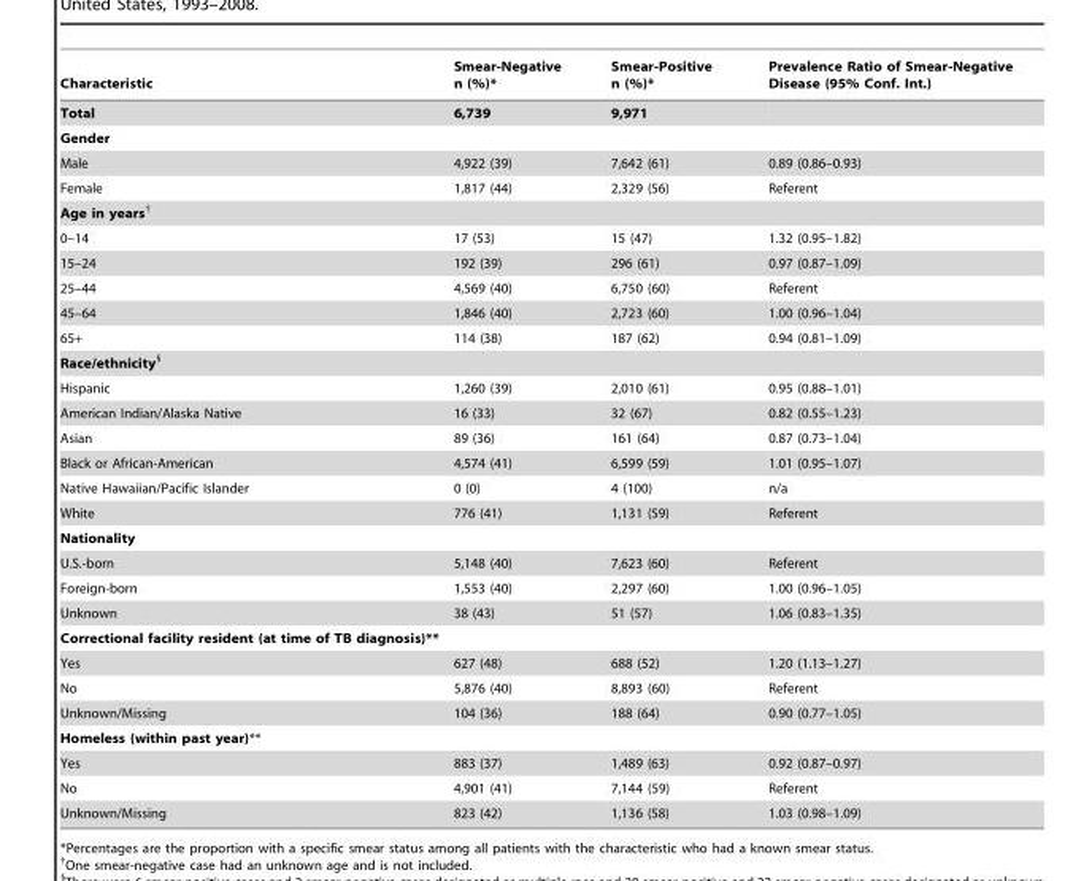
<table><thead><tr><td>Characteristic</td><td>Smear-Negative n (%)*</td><td>Smear-Positive n (%)*</td><td>Prevalence Ratio of Smear-Negative Disease (95% Conf. Int.)</td></tr></thead><tbody><tr><td>Total</td><td>6,739</td><td>9,971</td><td></td></tr><tr><td colspan="4">Gender</td></tr><tr><td>Male</td><td>4,922 (39)</td><td>7,642 (61)</td><td>0.89 (0.86–0.93)</td></tr><tr><td>Female</td><td>1,817 (44)</td><td>2,329 (56)</td><td>Referent</td></tr><tr><td colspan="4">Age in years†</td></tr><tr><td>0–14</td><td>17 (53)</td><td>15 (47)</td><td>1.32 (0.95–1.82)</td></tr><tr><td>15–24</td><td>192 (39)</td><td>296 (61)</td><td>0.97 (0.87–1.09)</td></tr><tr><td>25–44</td><td>4,569 (40)</td><td>6,750 (60)</td><td>Referent</td></tr><tr><td>45–64</td><td>1,846 (40)</td><td>2,723 (60)</td><td>1.00 (0.96–1.04)</td></tr><tr><td>65+</td><td>114 (38)</td><td>187 (62)</td><td>0.94 (0.81–1.09)</td></tr><tr><td colspan="4">Race/ethnicity§</td></tr><tr><td>Hispanic</td><td>1,260 (39)</td><td>2,010 (61)</td><td>0.95 (0.88–1.01)</td></tr><tr><td>American Indian/Alaska Native</td><td>16 (33)</td><td>32 (67)</td><td>0.82 (0.55–1.23)</td></tr><tr><td>Asian</td><td>89 (36)</td><td>161 (64)</td><td>0.87 (0.73–1.04)</td></tr><tr><td>Black or African-American</td><td>4,574 (41)</td><td>6,599 (59)</td><td>1.01 (0.95–1.07)</td></tr><tr><td>Native Hawaiian/Pacific Islander</td><td>0 (0)</td><td>4 (100)</td><td>n/a</td></tr><tr><td>White</td><td>776 (41)</td><td>1,131 (59)</td><td>Referent</td></tr><tr><td colspan="4">Nationality</td></tr><tr><td>U.S.-born</td><td>5,148 (40)</td><td>7,623 (60)</td><td>Referent</td></tr><tr><td>Foreign-born</td><td>1,553 (40)</td><td>2,297 (60)</td><td>1.00 (0.96–1.05)</td></tr><tr><td>Unknown</td><td>38 (43)</td><td>51 (57)</td><td>1.06 (0.83–1.35)</td></tr><tr><td colspan="4">Correctional facility resident (at time of TB diagnosis)**</td></tr><tr><td>Yes</td><td>627 (48)</td><td>688 (52)</td><td>1.20 (1.13–1.27)</td></tr><tr><td>No</td><td>5,876 (40)</td><td>8,893 (60)</td><td>Referent</td></tr><tr><td>Unknown/Missing</td><td>104 (36)</td><td>188 (64)</td><td>0.90 (0.77–1.05)</td></tr><tr><td colspan="4">Homeless (within past year)**</td></tr><tr><td>Yes</td><td>883 (37)</td><td>1,489 (63)</td><td>0.92 (0.87–0.97)</td></tr><tr><td>No</td><td>4,901 (41)</td><td>7,144 (59)</td><td>Referent</td></tr><tr><td>Unknown/Missing</td><td>823 (42)</td><td>1,136 (58)</td><td>1.03 (0.98–1.09)</td></tr></tbody></table>